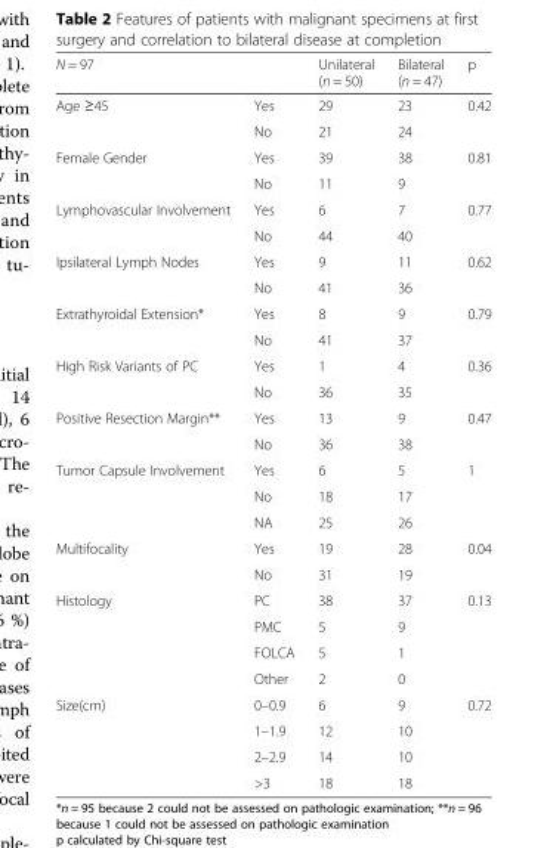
<table><thead><tr><td>N = 97</td><td></td><td>Unilateral (n = 50)</td><td>Bilateral (n = 47)</td><td>p</td></tr></thead><tbody><tr><td rowspan="2">Age ≥45</td><td>Yes</td><td>29</td><td>23</td><td rowspan="2">0.42</td></tr><tr><td>No</td><td>21</td><td>24</td></tr><tr><td rowspan="2">Female Gender</td><td>Yes</td><td>39</td><td>38</td><td rowspan="2">0.81</td></tr><tr><td>No</td><td>11</td><td>9</td></tr><tr><td rowspan="2">Lymphovascular Involvement</td><td>Yes</td><td>6</td><td>7</td><td rowspan="2">0.77</td></tr><tr><td>No</td><td>44</td><td>40</td></tr><tr><td rowspan="2">Ipsilateral Lymph Nodes</td><td>Yes</td><td>9</td><td>11</td><td rowspan="2">0.62</td></tr><tr><td>No</td><td>41</td><td>36</td></tr><tr><td rowspan="2">Extrathyroidal Extension*</td><td>Yes</td><td>8</td><td>9</td><td rowspan="2">0.79</td></tr><tr><td>No</td><td>41</td><td>37</td></tr><tr><td rowspan="2">High Risk Variants of PC</td><td>Yes</td><td>1</td><td>4</td><td rowspan="2">0.36</td></tr><tr><td>No</td><td>36</td><td>35</td></tr><tr><td rowspan="2">Positive Resection Margin**</td><td>Yes</td><td>13</td><td>9</td><td rowspan="2">0.47</td></tr><tr><td>No</td><td>36</td><td>38</td></tr><tr><td rowspan="3">Tumor Capsule Involvement</td><td>Yes</td><td>6</td><td>5</td><td rowspan="3">1</td></tr><tr><td>No</td><td>18</td><td>17</td></tr><tr><td>NA</td><td>25</td><td>26</td></tr><tr><td rowspan="2">Multifocality</td><td>Yes</td><td>19</td><td>28</td><td rowspan="2">0.04</td></tr><tr><td>No</td><td>31</td><td>19</td></tr><tr><td rowspan="4">Histology</td><td>PC</td><td>38</td><td>37</td><td rowspan="4">0.13</td></tr><tr><td>PMC</td><td>5</td><td>9</td></tr><tr><td>FOLCA</td><td>5</td><td>1</td></tr><tr><td>Other</td><td>2</td><td>0</td></tr><tr><td rowspan="4">Size(cm)</td><td>0–0.9</td><td>6</td><td>9</td><td rowspan="4">0.72</td></tr><tr><td>1–1.9</td><td>12</td><td>10</td></tr><tr><td>2–2.9</td><td>14</td><td>10</td></tr><tr><td>&gt;3</td><td>18</td><td>18</td></tr></tbody></table>